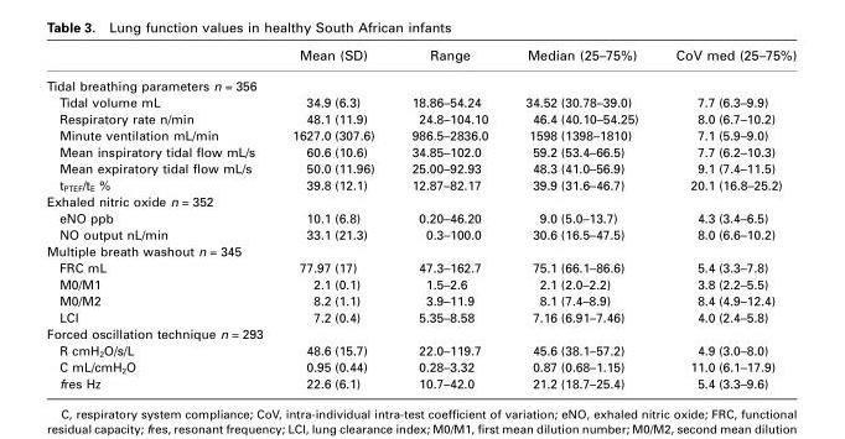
<table><thead><tr><td></td><td>Mean (SD)</td><td>Range</td><td>Median (25–75%)</td><td>CoV med (25–75%)</td></tr></thead><tbody><tr><td colspan="5">Tidal breathing parameters n = 356</td></tr><tr><td>Tidal volume mL</td><td>34.9 (6.3)</td><td>18.86–54.24</td><td>34.52 (30.78–39.0)</td><td>7.7 (6.3–9.9)</td></tr><tr><td>Respiratory rate n/min</td><td>48.1 (11.9)</td><td>24.8–104.10</td><td>46.4 (40.10–54.25)</td><td>8.0 (6.7–10.2)</td></tr><tr><td>Minute ventilation mL/min</td><td>1627.0 (307.6)</td><td>986.5–2836.0</td><td>1598 (1398–1810)</td><td>7.1 (5.9–9.0)</td></tr><tr><td>Mean inspiratory tidal flow mL/s</td><td>60.6 (10.6)</td><td>34.85–102.0</td><td>59.2 (53.4–66.5)</td><td>7.7 (6.2–10.3)</td></tr><tr><td>Mean expiratory tidal flow mL/s</td><td>50.0 (11.96)</td><td>25.00–92.93</td><td>48.3 (41.0–56.9)</td><td>9.1 (7.4–11.5)</td></tr><tr><td>t<sub>PTEF</sub>/t<sub>E</sub> %</td><td>39.8 (12.1)</td><td>12.87–82.17</td><td>39.9 (31.6–46.7)</td><td>20.1 (16.8–25.2)</td></tr><tr><td colspan="5">Exhaled nitric oxide n = 352</td></tr><tr><td>eNO ppb</td><td>10.1 (6.8)</td><td>0.20–46.20</td><td>9.0 (5.0–13.7)</td><td>4.3 (3.4–6.5)</td></tr><tr><td>NO output nL/min</td><td>33.1 (21.3)</td><td>0.3–100.0</td><td>30.6 (16.5–47.5)</td><td>8.0 (6.6–10.2)</td></tr><tr><td colspan="5">Multiple breath washout n = 345</td></tr><tr><td>FRC mL</td><td>77.97 (17)</td><td>47.3–162.7</td><td>75.1 (66.1–86.6)</td><td>5.4 (3.3–7.8)</td></tr><tr><td>M0/M1</td><td>2.1 (0.1)</td><td>1.5–2.6</td><td>2.1 (2.0–2.2)</td><td>3.8 (2.2–5.5)</td></tr><tr><td>M0/M2</td><td>8.2 (1.1)</td><td>3.9–11.9</td><td>8.1 (7.4–8.9)</td><td>8.4 (4.9–12.4)</td></tr><tr><td>LCI</td><td>7.2 (0.4)</td><td>5.35–8.58</td><td>7.16 (6.91–7.46)</td><td>4.0 (2.4–5.8)</td></tr><tr><td colspan="5">Forced oscillation technique n = 293</td></tr><tr><td>R cmH<sub>2</sub>O/s/L</td><td>48.6 (15.7)</td><td>22.0–119.7</td><td>45.6 (38.1–57.2)</td><td>4.9 (3.0–8.0)</td></tr><tr><td>C mL/cmH<sub>2</sub>O</td><td>0.95 (0.44)</td><td>0.28–3.32</td><td>0.87 (0.68–1.15)</td><td>11.0 (6.1–17.9)</td></tr><tr><td>fres Hz</td><td>22.6 (6.1)</td><td>10.7–42.0</td><td>21.2 (18.7–25.4)</td><td>5.4 (3.3–9.6)</td></tr></tbody></table>